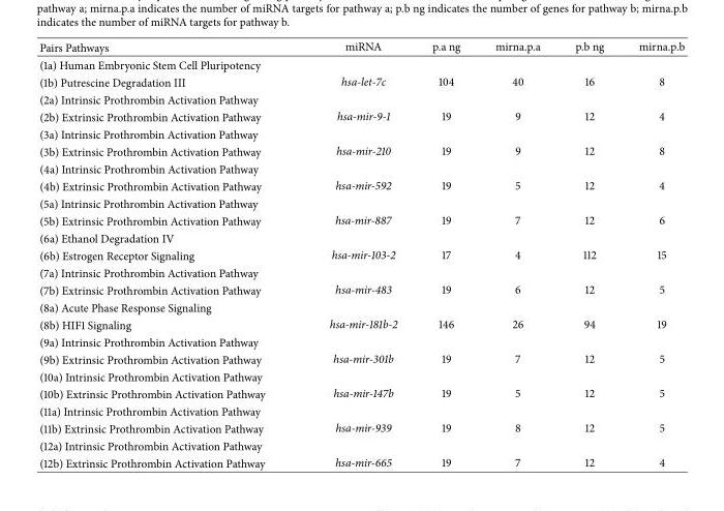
<table><thead><tr><td>Pairs Pathways</td><td>miRNA</td><td>p.a ng</td><td>mirna.p.a</td><td>p.b ng</td><td>mirna.p.b</td></tr></thead><tbody><tr><td colspan="6">(1a) Human Embryonic Stem Cell Pluripotency</td></tr><tr><td>(1b) Putrescine Degradation III</td><td>hsa-let-7c</td><td>104</td><td>40</td><td>16</td><td>8</td></tr><tr><td colspan="6">(2a) Intrinsic Prothrombin Activation Pathway</td></tr><tr><td>(2b) Extrinsic Prothrombin Activation Pathway</td><td>hsa-mir-9-1</td><td>19</td><td>9</td><td>12</td><td>4</td></tr><tr><td colspan="6">(3a) Intrinsic Prothrombin Activation Pathway</td></tr><tr><td>(3b) Extrinsic Prothrombin Activation Pathway</td><td>hsa-mir-210</td><td>19</td><td>9</td><td>12</td><td>8</td></tr><tr><td colspan="6">(4a) Intrinsic Prothrombin Activation Pathway</td></tr><tr><td>(4b) Extrinsic Prothrombin Activation Pathway</td><td>hsa-mir-592</td><td>19</td><td>5</td><td>12</td><td>4</td></tr><tr><td colspan="6">(5a) Intrinsic Prothrombin Activation Pathway</td></tr><tr><td>(5b) Extrinsic Prothrombin Activation Pathway</td><td>hsa-mir-887</td><td>19</td><td>7</td><td>12</td><td>6</td></tr><tr><td colspan="6">(6a) Ethanol Degradation IV</td></tr><tr><td>(6b) Estrogen Receptor Signaling</td><td>hsa-mir-103-2</td><td>17</td><td>4</td><td>112</td><td>15</td></tr><tr><td colspan="6">(7a) Intrinsic Prothrombin Activation Pathway</td></tr><tr><td>(7b) Extrinsic Prothrombin Activation Pathway</td><td>hsa-mir-483</td><td>19</td><td>6</td><td>12</td><td>5</td></tr><tr><td colspan="6">(8a) Acute Phase Response Signaling</td></tr><tr><td>(8b) HIF1 Signaling</td><td>hsa-mir-181b-2</td><td>146</td><td>26</td><td>94</td><td>19</td></tr><tr><td colspan="6">(9a) Intrinsic Prothrombin Activation Pathway</td></tr><tr><td>(9b) Extrinsic Prothrombin Activation Pathway</td><td>hsa-mir-301b</td><td>19</td><td>7</td><td>12</td><td>5</td></tr><tr><td colspan="6">(10a) Intrinsic Prothrombin Activation Pathway</td></tr><tr><td>(10b) Extrinsic Prothrombin Activation Pathway</td><td>hsa-mir-147b</td><td>19</td><td>5</td><td>12</td><td>5</td></tr><tr><td colspan="6">(11a) Intrinsic Prothrombin Activation Pathway</td></tr><tr><td>(11b) Extrinsic Prothrombin Activation Pathway</td><td>hsa-mir-939</td><td>19</td><td>8</td><td>12</td><td>5</td></tr><tr><td colspan="6">(12a) Intrinsic Prothrombin Activation Pathway</td></tr><tr><td>(12b) Extrinsic Prothrombin Activation Pathway</td><td>hsa-mir-665</td><td>19</td><td>7</td><td>12</td><td>4</td></tr></tbody></table>